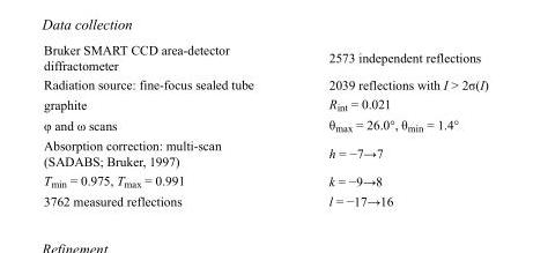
<table><tbody><tr><td>Bruker SMART CCD area-detector diffractometer</td><td>2573 independent reflections</td></tr><tr><td>Radiation source: fine-focus sealed tube</td><td>2039 reflections with I &gt; 2σ(I)</td></tr><tr><td>graphite</td><td>R<sub>int</sub> = 0.021</td></tr><tr><td>φ and ω scans</td><td>θ<sub>max</sub> = 26.0°, θ<sub>min</sub> = 1.4°</td></tr><tr><td>Absorption correction: multi-scan (SADABS; Bruker, 1997)</td><td>h = −7→7</td></tr><tr><td>T<sub>min</sub> = 0.975, T<sub>max</sub> = 0.991</td><td>k = −9→8</td></tr><tr><td>3762 measured reflections</td><td>l = −17→16</td></tr></tbody></table>